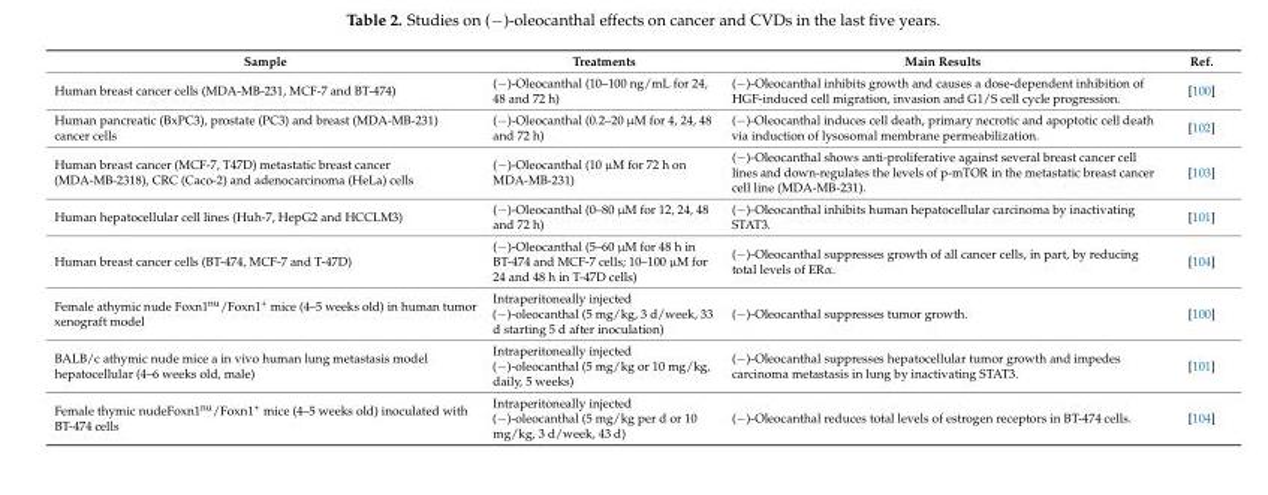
<table><thead><tr><td>Sample</td><td>Treatments</td><td>Main Results</td><td>Ref.</td></tr></thead><tbody><tr><td>Human breast cancer cells (MDA-MB-231, MCF-7 and BT-474)</td><td>(−)-Oleocanthal (10–100 ng/mL for 24, 48 and 72 h)</td><td>(−)-Oleocanthal inhibits growth and causes a dose-dependent inhibition of HGF-induced cell migration, invasion and G1/S cell cycle progression.</td><td>[100]</td></tr><tr><td>Human pancreatic (BxPC3), prostate (PC3) and breast (MDA-MB-231) cancer cells</td><td>(−)-Oleocanthal (0.2–20 µM for 4, 24, 48 and 72 h)</td><td>(−)-Oleocanthal induces cell death, primary necrotic and apoptotic cell death via induction of lysosomal membrane permeabilization.</td><td>[102]</td></tr><tr><td>Human breast cancer (MCF-7, T47D) metastatic breast cancer (MDA-MB-2318), CRC (Caco-2) and adenocarcinoma (HeLa) cells</td><td>(−)-Oleocanthal (10 µM for 72 h on MDA-MB-231)</td><td>(−)-Oleocanthal shows anti-proliferative against several breast cancer cell lines and down-regulates the levels of p-mTOR in the metastatic breast cancer cell line (MDA-MB-231).</td><td>[103]</td></tr><tr><td>Human hepatocellular cell lines (Huh-7, HepG2 and HCCLM3)</td><td>(−)-Oleocanthal (0–80 µM for 12, 24, 48 and 72 h)</td><td>(−)-Oleocanthal inhibits human hepatocellular carcinoma by inactivating STAT3.</td><td>[101]</td></tr><tr><td>Human breast cancer cells (BT-474, MCF-7 and T-47D)</td><td>(−)-Oleocanthal (5–60 µM for 48 h in BT-474 and MCF-7 cells; 10–100 µM for 24 and 48 h in T-47D cells)</td><td>(−)-Oleocanthal suppresses growth of all cancer cells, in part, by reducing total levels of ERα.</td><td>[104]</td></tr><tr><td>Female athymic nude Foxn1<sup>nu</sup>/Foxn1<sup>+</sup> mice (4–5 weeks old) in human tumor xenograft model</td><td>Intraperitoneally injected (−)-oleocanthal (5 mg/kg, 3 d/week, 33 d starting 5 d after inoculation)</td><td>(−)-Oleocanthal suppresses tumor growth.</td><td>[100]</td></tr><tr><td>BALB/c athymic nude mice a in vivo human lung metastasis model hepatocellular (4–6 weeks old, male)</td><td>Intraperitoneally injected (−)-oleocanthal (5 mg/kg or 10 mg/kg, daily, 5 weeks)</td><td>(−)-Oleocanthal suppresses hepatocellular tumor growth and impedes carcinoma metastasis in lung by inactivating STAT3.</td><td>[101]</td></tr><tr><td>Female thymic nudeFoxn1<sup>nu</sup>/Foxn1<sup>+</sup> mice (4–5 weeks old) inoculated with BT-474 cells</td><td>Intraperitoneally injected (−)-oleocanthal (5 mg/kg per d or 10 mg/kg, 3 d/week, 43 d)</td><td>(−)-Oleocanthal reduces total levels of estrogen receptors in BT-474 cells.</td><td>[104]</td></tr></tbody></table>